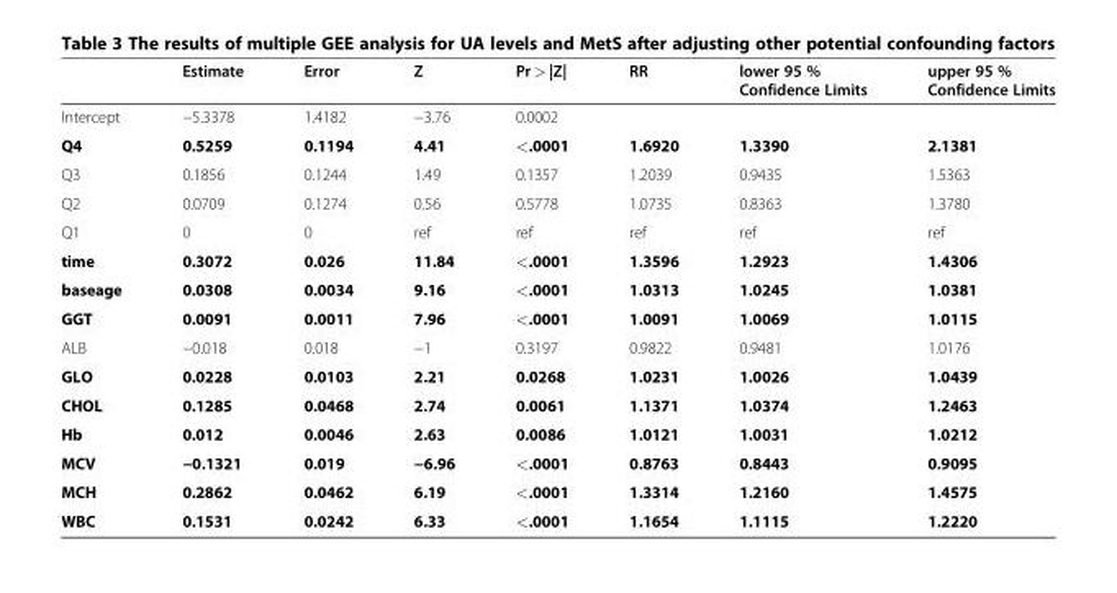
<table><thead><tr><td></td><td>Estimate</td><td>Error</td><td>Z</td><td>Pr &gt; |Z|</td><td>RR</td><td>lower 95 % Confidence Limits</td><td>upper 95 % Confidence Limits</td></tr></thead><tbody><tr><td>Intercept</td><td>−5.3378</td><td>1.4182</td><td>−3.76</td><td>0.0002</td><td></td><td></td><td></td></tr><tr><td>Q4</td><td>0.5259</td><td>0.1194</td><td>4.41</td><td>&lt;.0001</td><td>1.6920</td><td>1.3390</td><td>2.1381</td></tr><tr><td>Q3</td><td>0.1856</td><td>0.1244</td><td>1.49</td><td>0.1357</td><td>1.2039</td><td>0.9435</td><td>1.5363</td></tr><tr><td>Q2</td><td>0.0709</td><td>0.1274</td><td>0.56</td><td>0.5778</td><td>1.0735</td><td>0.8363</td><td>1.3780</td></tr><tr><td>Q1</td><td>0</td><td>0</td><td>ref</td><td>ref</td><td>ref</td><td>ref</td><td>ref</td></tr><tr><td>time</td><td>0.3072</td><td>0.026</td><td>11.84</td><td>&lt;.0001</td><td>1.3596</td><td>1.2923</td><td>1.4306</td></tr><tr><td>baseage</td><td>0.0308</td><td>0.0034</td><td>9.16</td><td>&lt;.0001</td><td>1.0313</td><td>1.0245</td><td>1.0381</td></tr><tr><td>GGT</td><td>0.0091</td><td>0.0011</td><td>7.96</td><td>&lt;.0001</td><td>1.0091</td><td>1.0069</td><td>1.0115</td></tr><tr><td>ALB</td><td>−0.018</td><td>0.018</td><td>−1</td><td>0.3197</td><td>0.9822</td><td>0.9481</td><td>1.0176</td></tr><tr><td>GLO</td><td>0.0228</td><td>0.0103</td><td>2.21</td><td>0.0268</td><td>1.0231</td><td>1.0026</td><td>1.0439</td></tr><tr><td>CHOL</td><td>0.1285</td><td>0.0468</td><td>2.74</td><td>0.0061</td><td>1.1371</td><td>1.0374</td><td>1.2463</td></tr><tr><td>Hb</td><td>0.012</td><td>0.0046</td><td>2.63</td><td>0.0086</td><td>1.0121</td><td>1.0031</td><td>1.0212</td></tr><tr><td>MCV</td><td>−0.1321</td><td>0.019</td><td>−6.96</td><td>&lt;.0001</td><td>0.8763</td><td>0.8443</td><td>0.9095</td></tr><tr><td>MCH</td><td>0.2862</td><td>0.0462</td><td>6.19</td><td>&lt;.0001</td><td>1.3314</td><td>1.2160</td><td>1.4575</td></tr><tr><td>WBC</td><td>0.1531</td><td>0.0242</td><td>6.33</td><td>&lt;.0001</td><td>1.1654</td><td>1.1115</td><td>1.2220</td></tr></tbody></table>